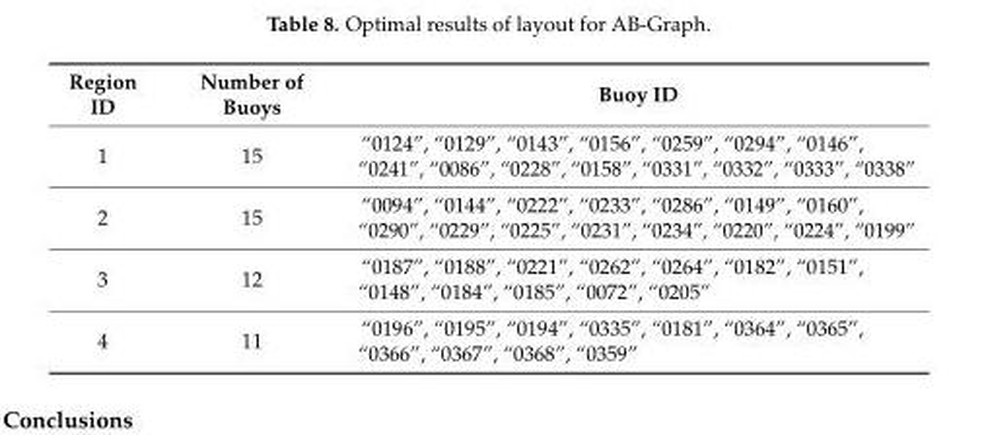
<table><thead><tr><td>Region ID</td><td>Number of Buoys</td><td>Buoy ID</td></tr></thead><tbody><tr><td>1</td><td>15</td><td>“0124”, “0129”, “0143”, “0156”, “0259”, “0294”, “0146”, “0241”, “0086”, “0228”, “0158”, “0331”, “0332”, “0333”, “0338”</td></tr><tr><td>2</td><td>15</td><td>“0094”, “0144”, “0222”, “0233”, “0286”, “0149”, “0160”, “0290”, “0229”, “0225”, “0231”, “0234”, “0220”, “0224”, “0199”</td></tr><tr><td>3</td><td>12</td><td>“0187”, “0188”, “0221”, “0262”, “0264”, “0182”, “0151”, “0148”, “0184”, “0185”, “0072”, “0205”</td></tr><tr><td>4</td><td>11</td><td>“0196”, “0195”, “0194”, “0335”, “0181”, “0364”, “0365”, “0366”, “0367”, “0368”, “0359”</td></tr></tbody></table>